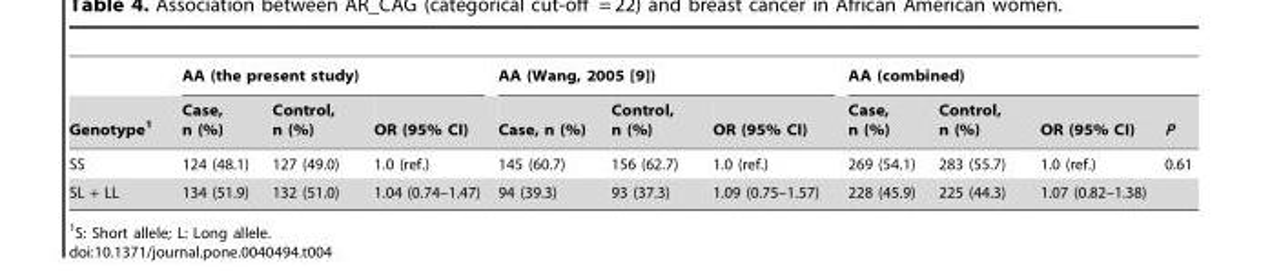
<table><thead><tr><td rowspan="2">Genotype<sup>1</sup></td><td colspan="3">AA (the present study)</td><td colspan="3">AA (Wang, 2005 [9])</td><td colspan="4">AA (combined)</td></tr><tr><td>Case, n (%)</td><td>Control, n (%)</td><td>OR (95% CI)</td><td>Case, n (%)</td><td>Control, n (%)</td><td>OR (95% CI)</td><td>Case, n (%)</td><td>Control, n (%)</td><td>OR (95% CI)</td><td>P</td></tr></thead><tbody><tr><td>SS</td><td>124 (48.1)</td><td>127 (49.0)</td><td>1.0 (ref.)</td><td>145 (60.7)</td><td>156 (62.7)</td><td>1.0 (ref.)</td><td>269 (54.1)</td><td>283 (55.7)</td><td>1.0 (ref.)</td><td>0.61</td></tr><tr><td>SL + LL</td><td>134 (51.9)</td><td>132 (51.0)</td><td>1.04 (0.74–1.47)</td><td>94 (39.3)</td><td>93 (37.3)</td><td>1.09 (0.75–1.57)</td><td>228 (45.9)</td><td>225 (44.3)</td><td>1.07 (0.82–1.38)</td><td></td></tr></tbody></table>